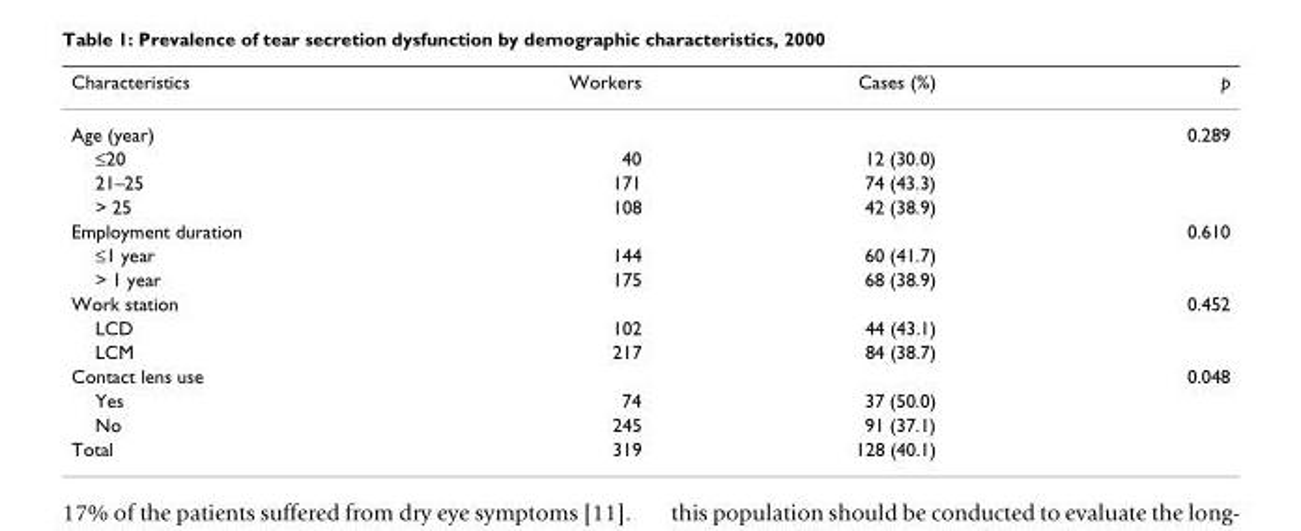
<table><thead><tr><td>Characteristics</td><td>Workers</td><td>Cases (%)</td><td>p</td></tr></thead><tbody><tr><td>Age (year)</td><td></td><td></td><td>0.289</td></tr><tr><td>≤20</td><td>40</td><td>12 (30.0)</td><td></td></tr><tr><td>21–25</td><td>171</td><td>74 (43.3)</td><td></td></tr><tr><td>&gt; 25</td><td>108</td><td>42 (38.9)</td><td></td></tr><tr><td>Employment duration</td><td></td><td></td><td>0.610</td></tr><tr><td>≤1 year</td><td>144</td><td>60 (41.7)</td><td></td></tr><tr><td>&gt; 1 year</td><td>175</td><td>68 (38.9)</td><td></td></tr><tr><td>Work station</td><td></td><td></td><td>0.452</td></tr><tr><td>LCD</td><td>102</td><td>44 (43.1)</td><td></td></tr><tr><td>LCM</td><td>217</td><td>84 (38.7)</td><td></td></tr><tr><td>Contact lens use</td><td></td><td></td><td>0.048</td></tr><tr><td>Yes</td><td>74</td><td>37 (50.0)</td><td></td></tr><tr><td>No</td><td>245</td><td>91 (37.1)</td><td></td></tr><tr><td>Total</td><td>319</td><td>128 (40.1)</td><td></td></tr></tbody></table>